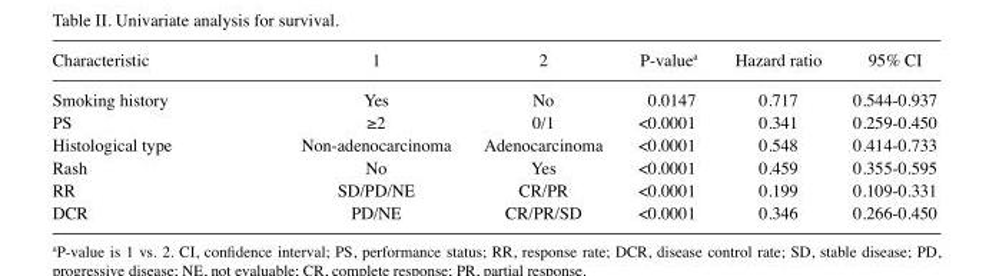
<table><thead><tr><td>Characteristic</td><td>1</td><td>2</td><td>P-value<sup>a</sup></td><td>Hazard ratio</td><td>95% CI</td></tr></thead><tbody><tr><td>Smoking history</td><td>Yes</td><td>No</td><td>0.0147</td><td>0.717</td><td>0.544-0.937</td></tr><tr><td>PS</td><td>≥2</td><td>0/1</td><td>&lt;0.0001</td><td>0.341</td><td>0.259‑0.450</td></tr><tr><td>Histological type</td><td>Non-adenocarcinoma</td><td>Adenocarcinoma</td><td>&lt;0.0001</td><td>0.548</td><td>0.414-0.733</td></tr><tr><td>Rash</td><td>No</td><td>Yes</td><td>&lt;0.0001</td><td>0.459</td><td>0.355-0.595</td></tr><tr><td>RR</td><td>SD/PD/NE</td><td>CR/PR</td><td>&lt;0.0001</td><td>0.199</td><td>0.109-0.331</td></tr><tr><td>DCR</td><td>PD/NE</td><td>CR/PR/SD</td><td>&lt;0.0001</td><td>0.346</td><td>0.266-0.450</td></tr></tbody></table>